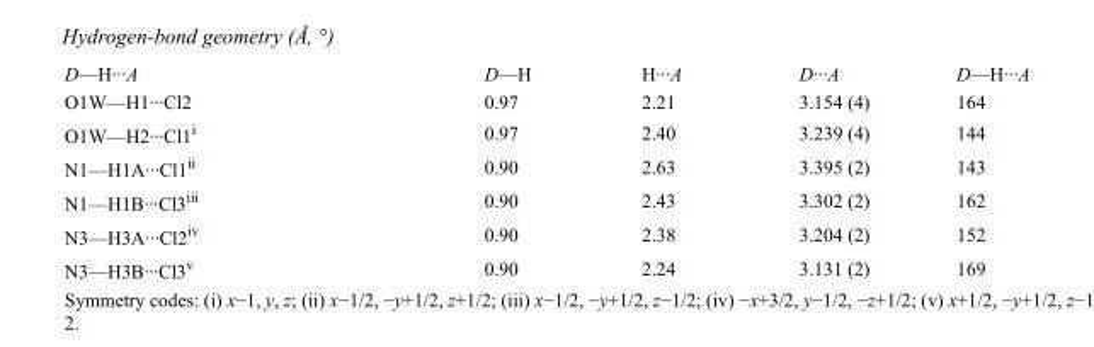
<table><tbody><tr><td>D—H···A</td><td>D—H</td><td>H···A</td><td>D···A</td><td>D—H···A</td></tr><tr><td>O1W—H1···Cl2</td><td>0.97</td><td>2.21</td><td>3.154 (4)</td><td>164</td></tr><tr><td>O1W—H2···Cl1<sup>i</sup></td><td>0.97</td><td>2.40</td><td>3.239 (4)</td><td>144</td></tr><tr><td>N1—H1A···Cl1<sup>ii</sup></td><td>0.90</td><td>2.63</td><td>3.395 (2)</td><td>143</td></tr><tr><td>N1—H1B···Cl3<sup>iii</sup></td><td>0.90</td><td>2.43</td><td>3.302 (2)</td><td>162</td></tr><tr><td>N3—H3A···Cl2<sup>iv</sup></td><td>0.90</td><td>2.38</td><td>3.204 (2)</td><td>152</td></tr><tr><td>N3—H3B···Cl3<sup>v</sup></td><td>0.90</td><td>2.24</td><td>3.131 (2)</td><td>169</td></tr></tbody></table>